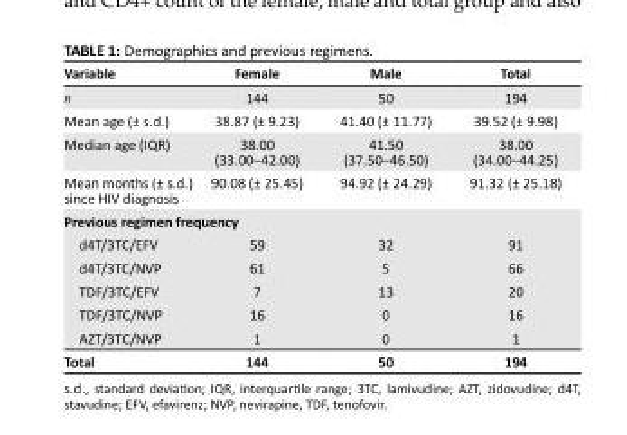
<table><thead><tr><td>Variable</td><td>Female</td><td>Male</td><td>Total</td></tr></thead><tbody><tr><td>n</td><td>144</td><td>50</td><td>194</td></tr><tr><td>Mean age (± s.d.)</td><td>38.87 (± 9.23)</td><td>41.40 (± 11.77)</td><td>39.52 (± 9.98)</td></tr><tr><td>Median age (IQR)</td><td>38.00 (33.00–42.00)</td><td>41.50 (37.50–46.50)</td><td>38.00 (34.00–44.25)</td></tr><tr><td>Mean months (± s.d.) since HIV diagnosis</td><td>90.08 (± 25.45)</td><td>94.92 (± 24.29)</td><td>91.32 (± 25.18)</td></tr><tr><td colspan="4">Previous regimen frequency</td></tr><tr><td>d4T/3TC/EFV</td><td>59</td><td>32</td><td>91</td></tr><tr><td>d4T/3TC/NVP</td><td>61</td><td>5</td><td>66</td></tr><tr><td>TDF/3TC/EFV</td><td>7</td><td>13</td><td>20</td></tr><tr><td>TDF/3TC/NVP</td><td>16</td><td>0</td><td>16</td></tr><tr><td>AZT/3TC/NVP</td><td>1</td><td>0</td><td>1</td></tr><tr><td>Total</td><td>144</td><td>50</td><td>194</td></tr></tbody></table>